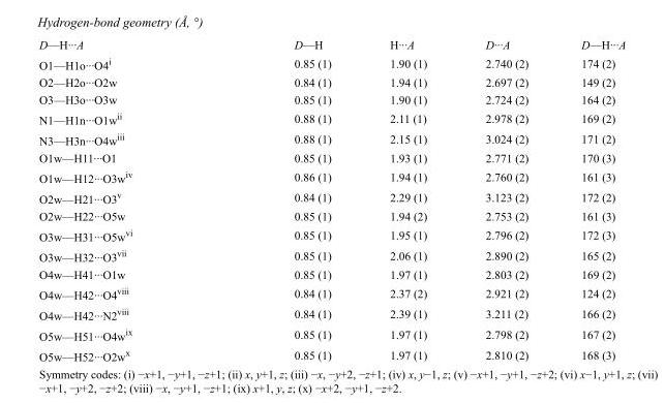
<table><tbody><tr><td>D—H···A</td><td>D—H</td><td>H···A</td><td>D···A</td><td>D—H···A</td></tr><tr><td>O1—H1o···O4<sup>i</sup></td><td>0.85 (1)</td><td>1.90 (1)</td><td>2.740 (2)</td><td>174 (2)</td></tr><tr><td>O2—H2o···O2w</td><td>0.84 (1)</td><td>1.94 (1)</td><td>2.697 (2)</td><td>149 (2)</td></tr><tr><td>O3—H3o···O3w</td><td>0.85 (1)</td><td>1.90 (1)</td><td>2.724 (2)</td><td>164 (2)</td></tr><tr><td>N1—H1n···O1w<sup>ii</sup></td><td>0.88 (1)</td><td>2.11 (1)</td><td>2.978 (2)</td><td>169 (2)</td></tr><tr><td>N3—H3n···O4w<sup>iii</sup></td><td>0.88 (1)</td><td>2.15 (1)</td><td>3.024 (2)</td><td>171 (2)</td></tr><tr><td>O1w—H11···O1</td><td>0.85 (1)</td><td>1.93 (1)</td><td>2.771 (2)</td><td>170 (3)</td></tr><tr><td>O1w—H12···O3w<sup>iv</sup></td><td>0.86 (1)</td><td>1.94 (1)</td><td>2.760 (2)</td><td>161 (3)</td></tr><tr><td>O2w—H21···O3<sup>v</sup></td><td>0.84 (1)</td><td>2.29 (1)</td><td>3.123 (2)</td><td>172 (2)</td></tr><tr><td>O2w—H22···O5w</td><td>0.85 (1)</td><td>1.94 (2)</td><td>2.753 (2)</td><td>161 (3)</td></tr><tr><td>O3w—H31···O5w<sup>vi</sup></td><td>0.85 (1)</td><td>1.95 (1)</td><td>2.796 (2)</td><td>172 (3)</td></tr><tr><td>O3w—H32···O3<sup>vii</sup></td><td>0.85 (1)</td><td>2.06 (1)</td><td>2.890 (2)</td><td>165 (2)</td></tr><tr><td>O4w—H41···O1w</td><td>0.85 (1)</td><td>1.97 (1)</td><td>2.803 (2)</td><td>169 (2)</td></tr><tr><td>O4w—H42···O4<sup>viii</sup></td><td>0.84 (1)</td><td>2.37 (2)</td><td>2.921 (2)</td><td>124 (2)</td></tr><tr><td>O4w—H42···N2<sup>viii</sup></td><td>0.84 (1)</td><td>2.39 (1)</td><td>3.211 (2)</td><td>166 (2)</td></tr><tr><td>O5w—H51···O4w<sup>ix</sup></td><td>0.85 (1)</td><td>1.97 (1)</td><td>2.798 (2)</td><td>167 (2)</td></tr><tr><td>O5w—H52···O2w<sup>x</sup></td><td>0.85 (1)</td><td>1.97 (1)</td><td>2.810 (2)</td><td>168 (3)</td></tr></tbody></table>